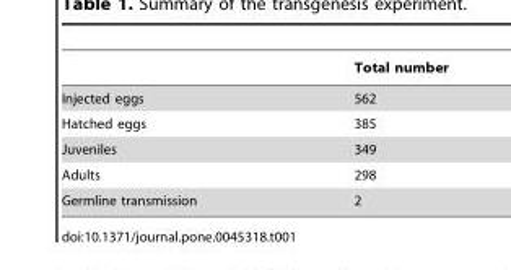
<table><thead><tr><td></td><td>Total number</td></tr></thead><tbody><tr><td>Injected eggs</td><td>562</td></tr><tr><td>Hatched eggs</td><td>385</td></tr><tr><td>Juveniles</td><td>349</td></tr><tr><td>Adults</td><td>298</td></tr><tr><td>Germline transmission</td><td>2</td></tr></tbody></table>